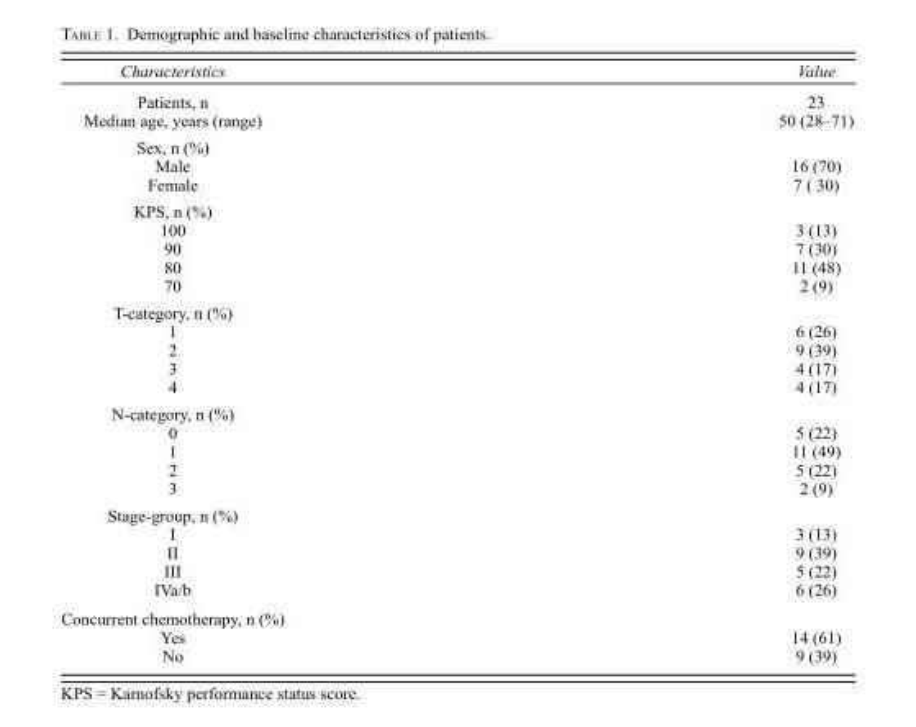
<table><thead><tr><td>Characteristics</td><td>Value</td></tr></thead><tbody><tr><td>Patients, n</td><td>23</td></tr><tr><td>Median age, years (range)</td><td>50 (28–71)</td></tr><tr><td colspan="2">Sex, n (%)</td></tr><tr><td>Male</td><td>16 (70)</td></tr><tr><td>Female</td><td>7 ( 30)</td></tr><tr><td colspan="2">KPS, n (%)</td></tr><tr><td>100</td><td>3 (13)</td></tr><tr><td>90</td><td>7 (30)</td></tr><tr><td>80</td><td>11 (48)</td></tr><tr><td>70</td><td>2 (9)</td></tr><tr><td colspan="2">T-category, n (%)</td></tr><tr><td>1</td><td>6 (26)</td></tr><tr><td>2</td><td>9 (39)</td></tr><tr><td>3</td><td>4 (17)</td></tr><tr><td>4</td><td>4 (17)</td></tr><tr><td colspan="2">N-category, n (%)</td></tr><tr><td>0</td><td>5 (22)</td></tr><tr><td>1</td><td>11 (49)</td></tr><tr><td>2</td><td>5 (22)</td></tr><tr><td>3</td><td>2 (9)</td></tr><tr><td colspan="2">Stage-group, n (%)</td></tr><tr><td>I</td><td>3 (13)</td></tr><tr><td>II</td><td>9 (39)</td></tr><tr><td>III</td><td>5 (22)</td></tr><tr><td>IVa/b</td><td>6 (26)</td></tr><tr><td colspan="2">Concurrent chemotherapy, n (%)</td></tr><tr><td>Yes</td><td>14 (61)</td></tr><tr><td>No</td><td>9 (39)</td></tr></tbody></table>